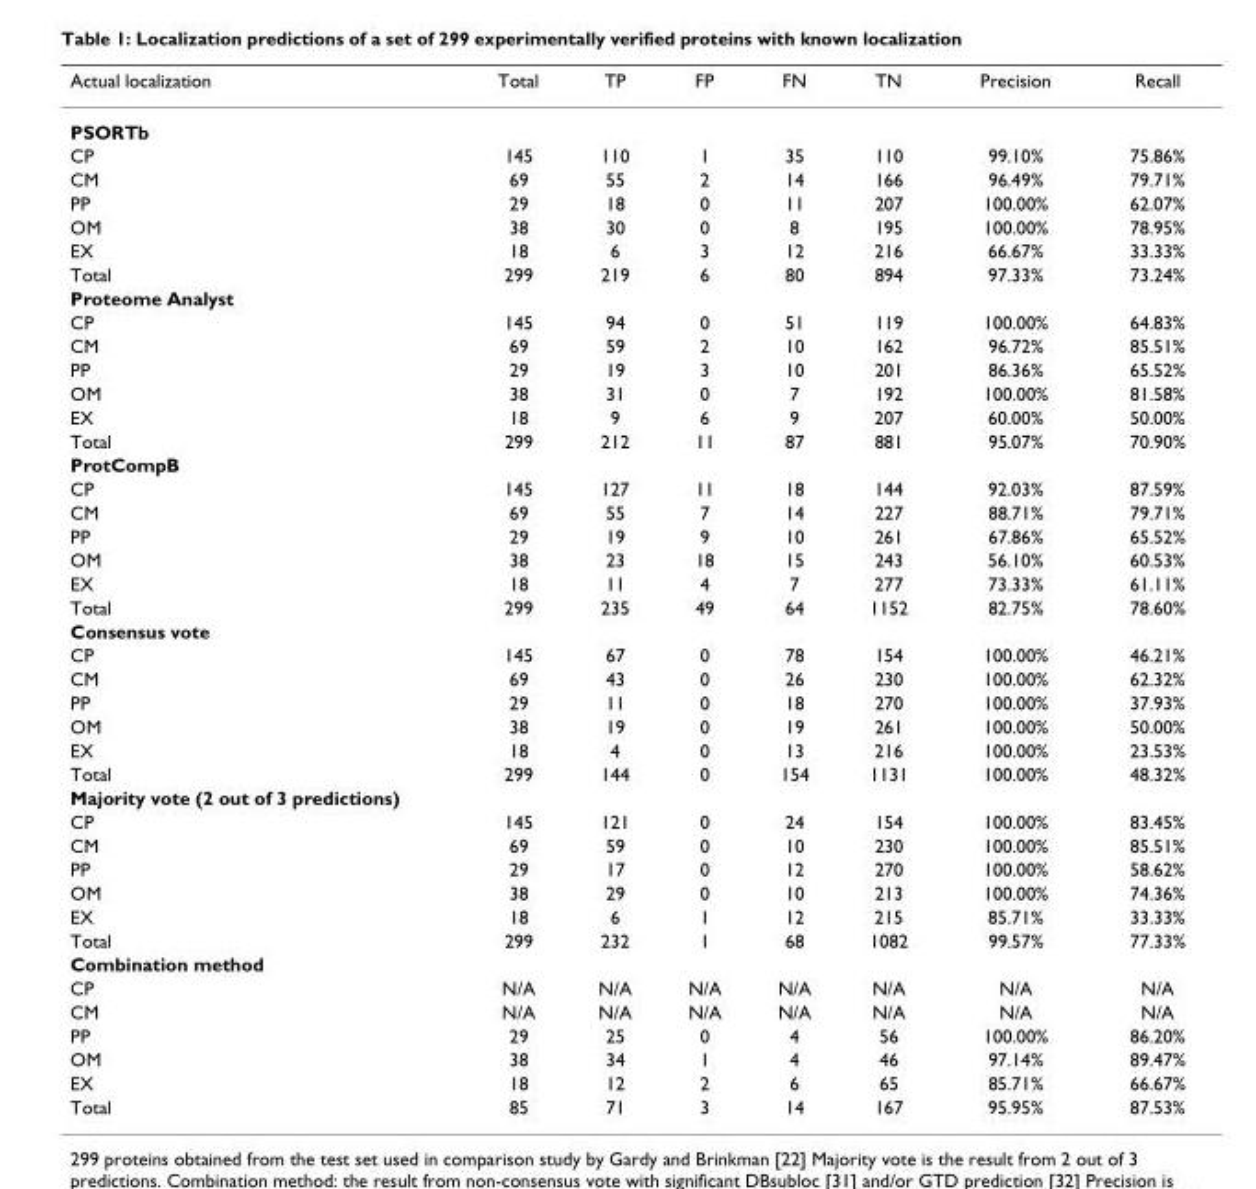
<table><thead><tr><td>Actual localization</td><td>Total</td><td>TP</td><td>FP</td><td>FN</td><td>TN</td><td>Precision</td><td>Recall</td></tr></thead><tbody><tr><td colspan="8">PSORTb</td></tr><tr><td>CP</td><td>145</td><td>110</td><td>1</td><td>35</td><td>110</td><td>99.10%</td><td>75.86%</td></tr><tr><td>CM</td><td>69</td><td>55</td><td>2</td><td>14</td><td>166</td><td>96.49%</td><td>79.71%</td></tr><tr><td>PP</td><td>29</td><td>18</td><td>0</td><td>11</td><td>207</td><td>100.00%</td><td>62.07%</td></tr><tr><td>OM</td><td>38</td><td>30</td><td>0</td><td>8</td><td>195</td><td>100.00%</td><td>78.95%</td></tr><tr><td>EX</td><td>18</td><td>6</td><td>3</td><td>12</td><td>216</td><td>66.67%</td><td>33.33%</td></tr><tr><td>Total</td><td>299</td><td>219</td><td>6</td><td>80</td><td>894</td><td>97.33%</td><td>73.24%</td></tr><tr><td colspan="8">Proteome Analyst</td></tr><tr><td>CP</td><td>145</td><td>94</td><td>0</td><td>51</td><td>119</td><td>100.00%</td><td>64.83%</td></tr><tr><td>CM</td><td>69</td><td>59</td><td>2</td><td>10</td><td>162</td><td>96.72%</td><td>85.51%</td></tr><tr><td>PP</td><td>29</td><td>19</td><td>3</td><td>10</td><td>201</td><td>86.36%</td><td>65.52%</td></tr><tr><td>OM</td><td>38</td><td>31</td><td>0</td><td>7</td><td>192</td><td>100.00%</td><td>81.58%</td></tr><tr><td>EX</td><td>18</td><td>9</td><td>6</td><td>9</td><td>207</td><td>60.00%</td><td>50.00%</td></tr><tr><td>Total</td><td>299</td><td>212</td><td>11</td><td>87</td><td>881</td><td>95.07%</td><td>70.90%</td></tr><tr><td colspan="8">ProtCompB</td></tr><tr><td>CP</td><td>145</td><td>127</td><td>11</td><td>18</td><td>144</td><td>92.03%</td><td>87.59%</td></tr><tr><td>CM</td><td>69</td><td>55</td><td>7</td><td>14</td><td>227</td><td>88.71%</td><td>79.71%</td></tr><tr><td>PP</td><td>29</td><td>19</td><td>9</td><td>10</td><td>261</td><td>67.86%</td><td>65.52%</td></tr><tr><td>OM</td><td>38</td><td>23</td><td>18</td><td>15</td><td>243</td><td>56.10%</td><td>60.53%</td></tr><tr><td>EX</td><td>18</td><td>11</td><td>4</td><td>7</td><td>277</td><td>73.33%</td><td>61.11%</td></tr><tr><td>Total</td><td>299</td><td>235</td><td>49</td><td>64</td><td>1152</td><td>82.75%</td><td>78.60%</td></tr><tr><td colspan="8">Consensus vote</td></tr><tr><td>CP</td><td>145</td><td>67</td><td>0</td><td>78</td><td>154</td><td>100.00%</td><td>46.21%</td></tr><tr><td>CM</td><td>69</td><td>43</td><td>0</td><td>26</td><td>230</td><td>100.00%</td><td>62.32%</td></tr><tr><td>PP</td><td>29</td><td>11</td><td>0</td><td>18</td><td>270</td><td>100.00%</td><td>37.93%</td></tr><tr><td>OM</td><td>38</td><td>19</td><td>0</td><td>19</td><td>261</td><td>100.00%</td><td>50.00%</td></tr><tr><td>EX</td><td>18</td><td>4</td><td>0</td><td>13</td><td>216</td><td>100.00%</td><td>23.53%</td></tr><tr><td>Total</td><td>299</td><td>144</td><td>0</td><td>154</td><td>1131</td><td>100.00%</td><td>48.32%</td></tr><tr><td colspan="8">Majority vote (2 out of 3 predictions)</td></tr><tr><td>CP</td><td>145</td><td>121</td><td>0</td><td>24</td><td>154</td><td>100.00%</td><td>83.45%</td></tr><tr><td>CM</td><td>69</td><td>59</td><td>0</td><td>10</td><td>230</td><td>100.00%</td><td>85.51%</td></tr><tr><td>PP</td><td>29</td><td>17</td><td>0</td><td>12</td><td>270</td><td>100.00%</td><td>58.62%</td></tr><tr><td>OM</td><td>38</td><td>29</td><td>0</td><td>10</td><td>213</td><td>100.00%</td><td>74.36%</td></tr><tr><td>EX</td><td>18</td><td>6</td><td>1</td><td>12</td><td>215</td><td>85.71%</td><td>33.33%</td></tr><tr><td>Total</td><td>299</td><td>232</td><td>1</td><td>68</td><td>1082</td><td>99.57%</td><td>77.33%</td></tr><tr><td colspan="8">Combination method</td></tr><tr><td>CP</td><td>N/A</td><td>N/A</td><td>N/A</td><td>N/A</td><td>N/A</td><td>N/A</td><td>N/A</td></tr><tr><td>CM</td><td>N/A</td><td>N/A</td><td>N/A</td><td>N/A</td><td>N/A</td><td>N/A</td><td>N/A</td></tr><tr><td>PP</td><td>29</td><td>25</td><td>0</td><td>4</td><td>56</td><td>100.00%</td><td>86.20%</td></tr><tr><td>OM</td><td>38</td><td>34</td><td>1</td><td>4</td><td>46</td><td>97.14%</td><td>89.47%</td></tr><tr><td>EX</td><td>18</td><td>12</td><td>2</td><td>6</td><td>65</td><td>85.71%</td><td>66.67%</td></tr><tr><td>Total</td><td>85</td><td>71</td><td>3</td><td>14</td><td>167</td><td>95.95%</td><td>87.53%</td></tr></tbody></table>